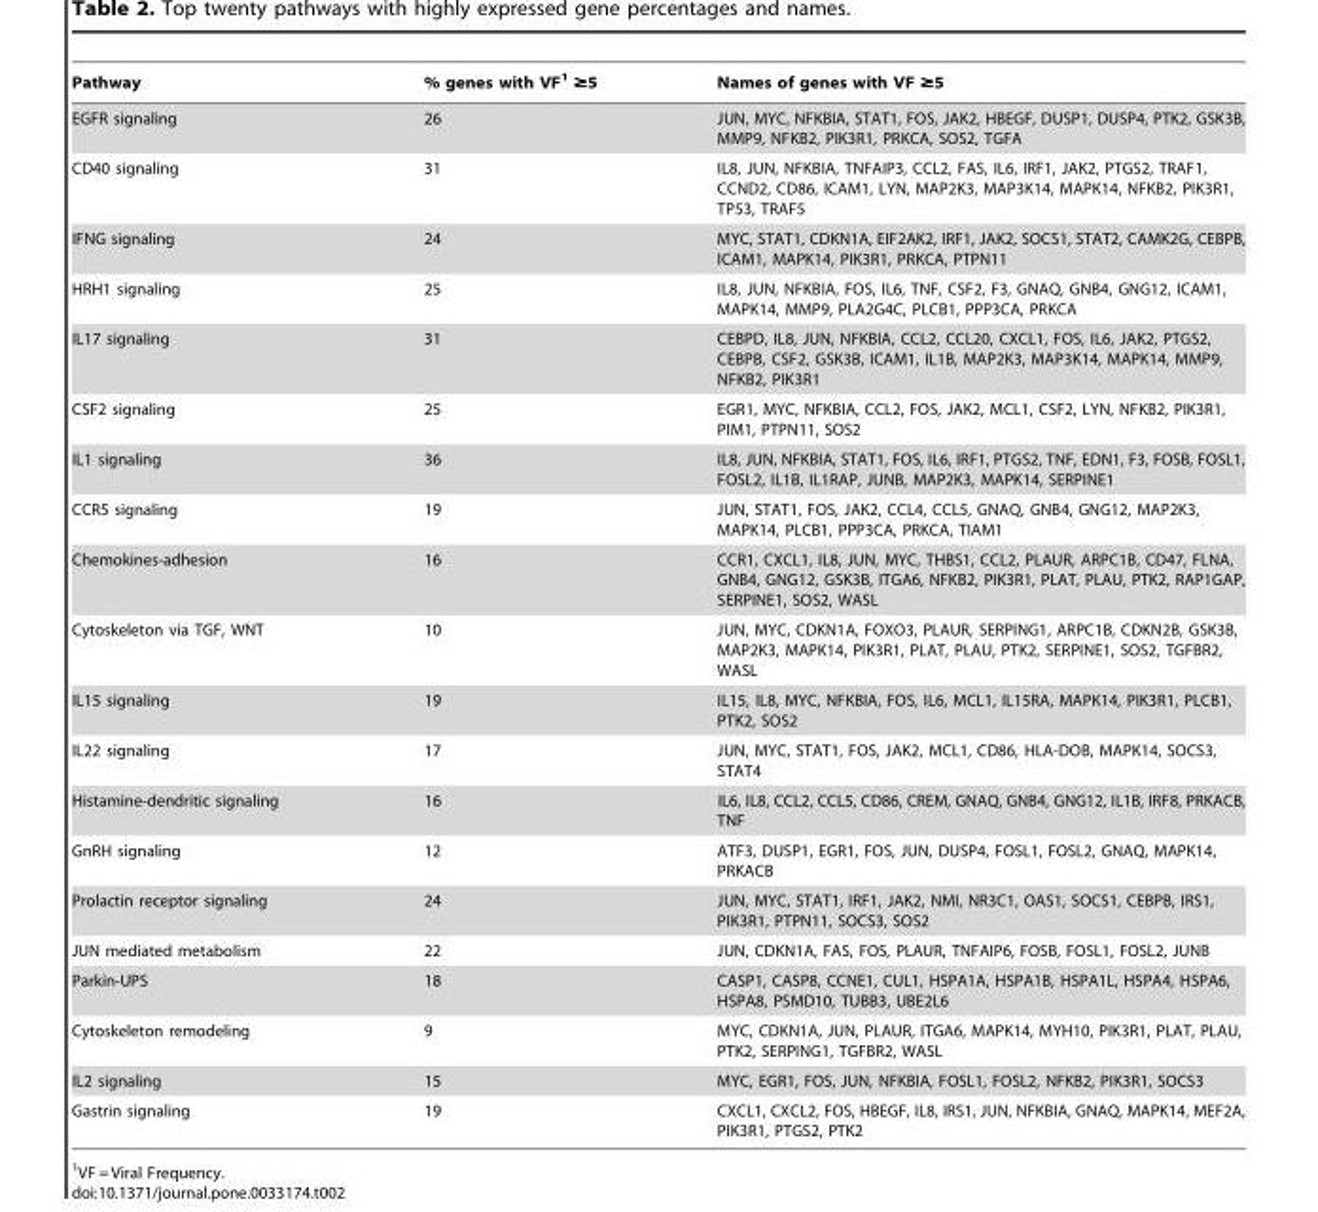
<table><thead><tr><td>Pathway</td><td>% genes with VF<sup>1</sup> ≥5</td><td>Names of genes with VF ≥5</td></tr></thead><tbody><tr><td>EGFR signaling</td><td>26</td><td>JUN, MYC, NFKBIA, STAT1, FOS, JAK2, HBEGF, DUSP1, DUSP4, PTK2, GSK3B, MMP9, NFKB2, PIK3R1, PRKCA, SOS2, TGFA</td></tr><tr><td>CD40 signaling</td><td>31</td><td>IL8, JUN, NFKBIA, TNFAIP3, CCL2, FAS, IL6, IRF1, JAK2, PTGS2, TRAF1, CCND2, CD86, ICAM1, LYN, MAP2K3, MAP3K14, MAPK14, NFKB2, PIK3R1, TP53, TRAF5</td></tr><tr><td>IFNG signaling</td><td>24</td><td>MYC, STAT1, CDKN1A, EIF2AK2, IRF1, JAK2, SOCS1, STAT2, CAMK2G, CEBPB, ICAM1, MAPK14, PIK3R1, PRKCA, PTPN11</td></tr><tr><td>HRH1 signaling</td><td>25</td><td>IL8, JUN, NFKBIA, FOS, IL6, TNF, CSF2, F3, GNAQ, GNB4, GNG12, ICAM1, MAPK14, MMP9, PLA2G4C, PLCB1, PPP3CA, PRKCA</td></tr><tr><td>IL17 signaling</td><td>31</td><td>CEBPD, IL8, JUN, NFKBIA, CCL2, CCL20, CXCL1, FOS, IL6, JAK2, PTGS2, CEBPB, CSF2, GSK3B, ICAM1, IL1B, MAP2K3, MAP3K14, MAPK14, MMP9, NFKB2, PIK3R1</td></tr><tr><td>CSF2 signaling</td><td>25</td><td>EGR1, MYC, NFKBIA, CCL2, FOS, JAK2, MCL1, CSF2, LYN, NFKB2, PIK3R1, PIM1, PTPN11, SOS2</td></tr><tr><td>IL1 signaling</td><td>36</td><td>IL8, JUN, NFKBIA, STAT1, FOS, IL6, IRF1, PTGS2, TNF, EDN1, F3, FOSB, FOSL1, FOSL2, IL1B, IL1RAP, JUNB, MAP2K3, MAPK14, SERPINE1</td></tr><tr><td>CCR5 signaling</td><td>19</td><td>JUN, STAT1, FOS, JAK2, CCL4, CCL5, GNAQ, GNB4, GNG12, MAP2K3, MAPK14, PLCB1, PPP3CA, PRKCA, TIAM1</td></tr><tr><td>Chemokines-adhesion</td><td>16</td><td>CCR1, CXCL1, IL8, JUN, MYC, THBS1, CCL2, PLAUR, ARPC1B, CD47, FLNA, GNB4, GNG12, GSK3B, ITGA6, NFKB2, PIK3R1, PLAT, PLAU, PTK2, RAP1GAP, SERPINE1, SOS2, WASL</td></tr><tr><td>Cytoskeleton via TGF, WNT</td><td>10</td><td>JUN, MYC, CDKN1A, FOXO3, PLAUR, SERPING1, ARPC1B, CDKN2B, GSK3B, MAP2K3, MAPK14, PIK3R1, PLAT, PLAU, PTK2, SERPINE1, SOS2, TGFBR2, WASL</td></tr><tr><td>IL15 signaling</td><td>19</td><td>IL15, IL8, MYC, NFKBIA, FOS, IL6, MCL1, IL15RA, MAPK14, PIK3R1, PLCB1, PTK2, SOS2</td></tr><tr><td>IL22 signaling</td><td>17</td><td>JUN, MYC, STAT1, FOS, JAK2, MCL1, CD86, HLA-DOB, MAPK14, SOCS3, STAT4</td></tr><tr><td>Histamine-dendritic signaling</td><td>16</td><td>IL6, IL8, CCL2, CCL5, CD86, CREM, GNAQ, GNB4, GNG12, IL1B, IRF8, PRKACB, TNF</td></tr><tr><td>GnRH signaling</td><td>12</td><td>ATF3, DUSP1, EGR1, FOS, JUN, DUSP4, FOSL1, FOSL2, GNAQ, MAPK14, PRKACB</td></tr><tr><td>Prolactin receptor signaling</td><td>24</td><td>JUN, MYC, STAT1, IRF1, JAK2, NMI, NR3C1, OAS1, SOCS1, CEBPB, IRS1, PIK3R1, PTPN11, SOCS3, SOS2</td></tr><tr><td>JUN mediated metabolism</td><td>22</td><td>JUN, CDKN1A, FAS, FOS, PLAUR, TNFAIP6, FOSB, FOSL1, FOSL2, JUNB</td></tr><tr><td>Parkin-UPS</td><td>18</td><td>CASP1, CASP8, CCNE1, CUL1, HSPA1A, HSPA1B, HSPA1L, HSPA4, HSPA6, HSPA8, PSMD10, TUBB3, UBE2L6</td></tr><tr><td>Cytoskeleton remodeling</td><td>9</td><td>MYC, CDKN1A, JUN, PLAUR, ITGA6, MAPK14, MYH10, PIK3R1, PLAT, PLAU, PTK2, SERPING1, TGFBR2, WASL</td></tr><tr><td>IL2 signaling</td><td>15</td><td>MYC, EGR1, FOS, JUN, NFKBIA, FOSL1, FOSL2, NFKB2, PIK3R1, SOCS3</td></tr><tr><td>Gastrin signaling</td><td>19</td><td>CXCL1, CXCL2, FOS, HBEGF, IL8, IRS1, JUN, NFKBIA, GNAQ, MAPK14, MEF2A, PIK3R1, PTGS2, PTK2</td></tr></tbody></table>